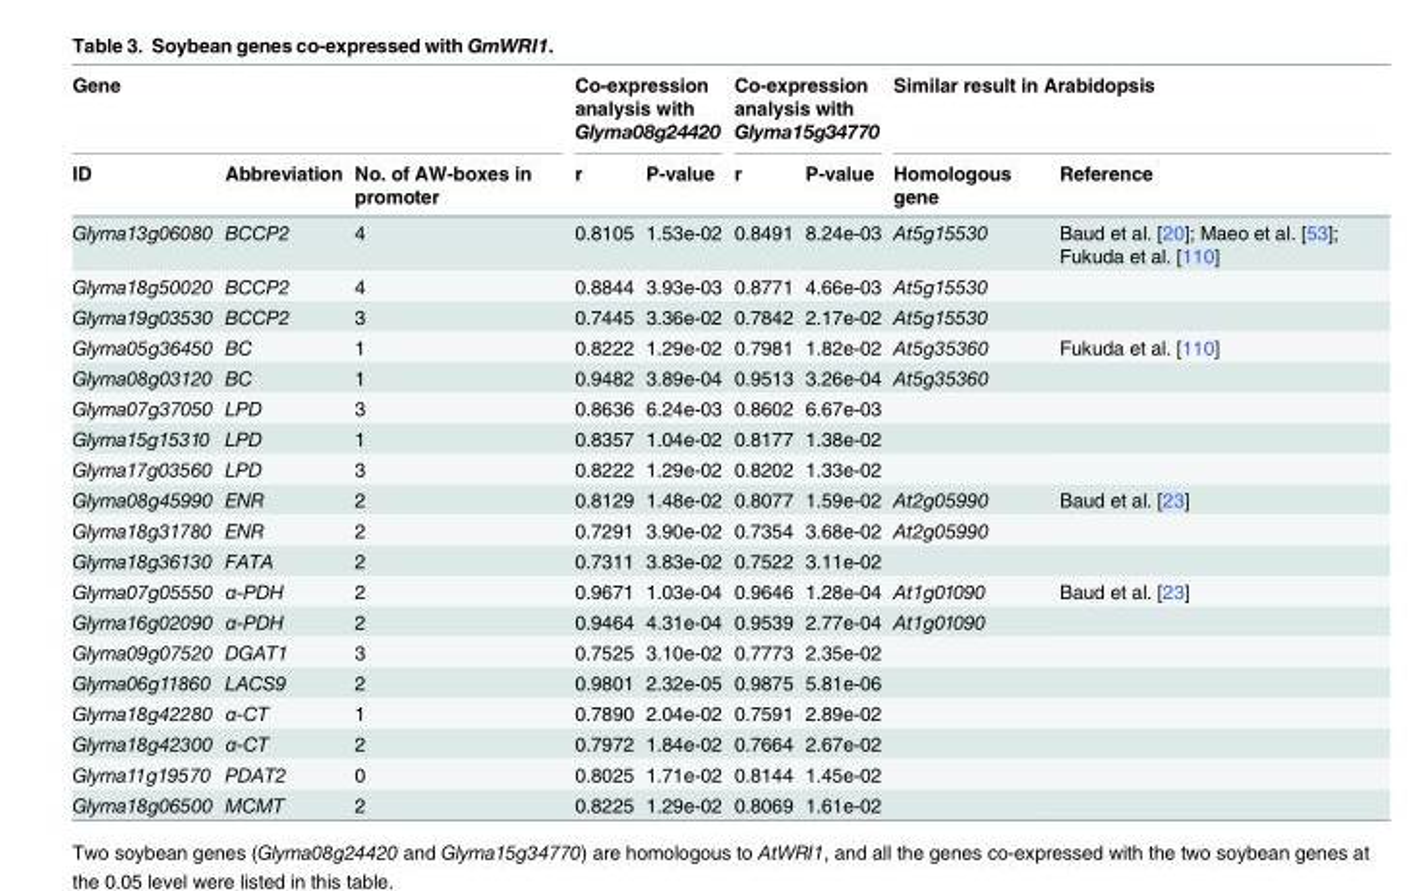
<table><thead><tr><td colspan="3">Gene</td><td colspan="2">Co-expression analysis with Glyma08g24420</td><td colspan="2">Co-expression analysis with Glyma15g34770</td><td colspan="2">Similar result in Arabidopsis</td></tr><tr><td>ID</td><td>Abbreviation</td><td>No. of AW-boxes in promoter</td><td>r</td><td>P-value</td><td>r</td><td>P-value</td><td>Homologous gene</td><td>Reference</td></tr></thead><tbody><tr><td>Glyma13g06080</td><td>BCCP2</td><td>4</td><td>0.8105</td><td>1.53e-02</td><td>0.8491</td><td>8.24e-03</td><td>At5g15530</td><td>Baud et al. [20]; Maeo et al. [53]; Fukuda et al. [110]</td></tr><tr><td>Glyma18g50020</td><td>BCCP2</td><td>4</td><td>0.8844</td><td>3.93e-03</td><td>0.8771</td><td>4.66e-03</td><td>At5g15530</td><td></td></tr><tr><td>Glyma19g03530</td><td>BCCP2</td><td>3</td><td>0.7445</td><td>3.36e-02</td><td>0.7842</td><td>2.17e-02</td><td>At5g15530</td><td></td></tr><tr><td>Glyma05g36450</td><td>BC</td><td>1</td><td>0.8222</td><td>1.29e-02</td><td>0.7981</td><td>1.82e-02</td><td>At5g35360</td><td>Fukuda et al. [110]</td></tr><tr><td>Glyma08g03120</td><td>BC</td><td>1</td><td>0.9482</td><td>3.89e-04</td><td>0.9513</td><td>3.26e-04</td><td>At5g35360</td><td></td></tr><tr><td>Glyma07g37050</td><td>LPD</td><td>3</td><td>0.8636</td><td>6.24e-03</td><td>0.8602</td><td>6.67e-03</td><td></td><td></td></tr><tr><td>Glyma15g15310</td><td>LPD</td><td>1</td><td>0.8357</td><td>1.04e-02</td><td>0.8177</td><td>1.38e-02</td><td></td><td></td></tr><tr><td>Glyma17g03560</td><td>LPD</td><td>3</td><td>0.8222</td><td>1.29e-02</td><td>0.8202</td><td>1.33e-02</td><td></td><td></td></tr><tr><td>Glyma08g45990</td><td>ENR</td><td>2</td><td>0.8129</td><td>1.48e-02</td><td>0.8077</td><td>1.59e-02</td><td>At2g05990</td><td>Baud et al. [23]</td></tr><tr><td>Glyma18g31780</td><td>ENR</td><td>2</td><td>0.7291</td><td>3.90e-02</td><td>0.7354</td><td>3.68e-02</td><td>At2g05990</td><td></td></tr><tr><td>Glyma18g36130</td><td>FATA</td><td>2</td><td>0.7311</td><td>3.83e-02</td><td>0.7522</td><td>3.11e-02</td><td></td><td></td></tr><tr><td>Glyma07g05550</td><td>α-PDH</td><td>2</td><td>0.9671</td><td>1.03e-04</td><td>0.9646</td><td>1.28e-04</td><td>At1g01090</td><td>Baud et al. [23]</td></tr><tr><td>Glyma16g02090</td><td>α-PDH</td><td>2</td><td>0.9464</td><td>4.31e-04</td><td>0.9539</td><td>2.77e-04</td><td>At1g01090</td><td></td></tr><tr><td>Glyma09g07520</td><td>DGAT1</td><td>3</td><td>0.7525</td><td>3.10e-02</td><td>0.7773</td><td>2.35e-02</td><td></td><td></td></tr><tr><td>Glyma06g11860</td><td>LACS9</td><td>2</td><td>0.9801</td><td>2.32e-05</td><td>0.9875</td><td>5.81e-06</td><td></td><td></td></tr><tr><td>Glyma18g42280</td><td>α-CT</td><td>1</td><td>0.7890</td><td>2.04e-02</td><td>0.7591</td><td>2.89e-02</td><td></td><td></td></tr><tr><td>Glyma18g42300</td><td>α-CT</td><td>2</td><td>0.7972</td><td>1.84e-02</td><td>0.7664</td><td>2.67e-02</td><td></td><td></td></tr><tr><td>Glyma11g19570</td><td>PDAT2</td><td>0</td><td>0.8025</td><td>1.71e-02</td><td>0.8144</td><td>1.45e-02</td><td></td><td></td></tr><tr><td>Glyma18g06500</td><td>MCMT</td><td>2</td><td>0.8225</td><td>1.29e-02</td><td>0.8069</td><td>1.61e-02</td><td></td><td></td></tr></tbody></table>